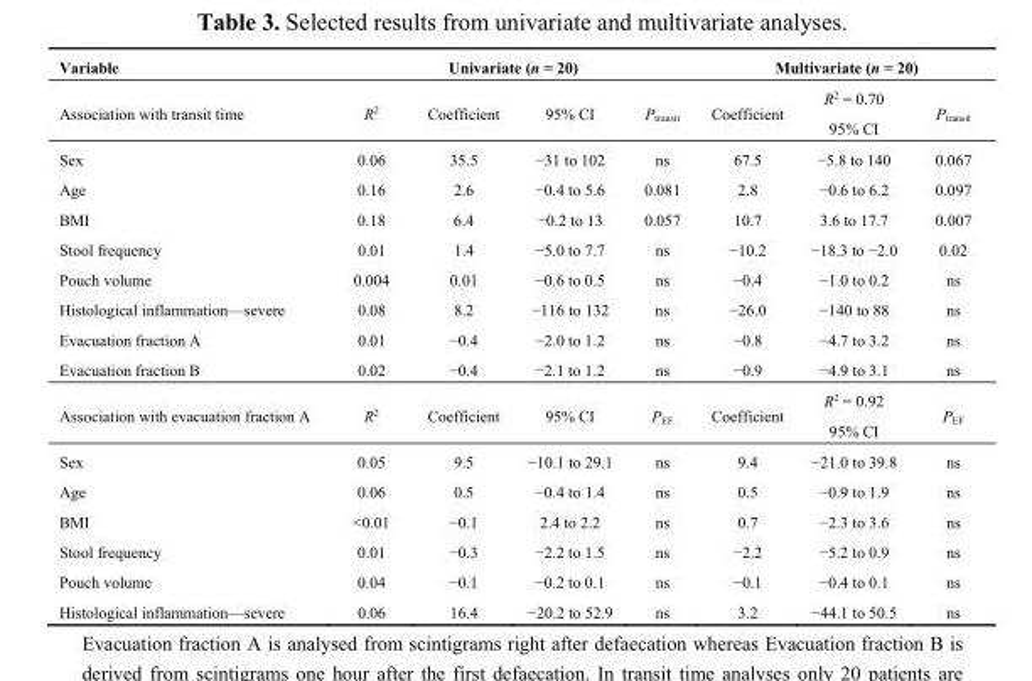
<table><thead><tr><td rowspan="2">Variable Association with transit time</td><td colspan="4">Univariate (n = 20)</td><td colspan="3">Multivariate (n = 20)</td></tr><tr><td>R<sup>2</sup></td><td>Coefficient</td><td>95% CI</td><td>P<sub>transit</sub></td><td>Coefficient</td><td>R<sup>2</sup> = 0.70 95% CI</td><td>P<sub>transit</sub></td></tr></thead><tbody><tr><td>Sex</td><td>0.06</td><td>35.5</td><td>−31 to 102</td><td>ns</td><td>67.5</td><td>−5.8 to 140</td><td>0.067</td></tr><tr><td>Age</td><td>0.16</td><td>2.6</td><td>−0.4 to 5.6</td><td>0.081</td><td>2.8</td><td>−0.6 to 6.2</td><td>0.097</td></tr><tr><td>BMI</td><td>0.18</td><td>6.4</td><td>−0.2 to 13</td><td>0.057</td><td>10.7</td><td>3.6 to 17.7</td><td>0.007</td></tr><tr><td>Stool frequency</td><td>0.01</td><td>1.4</td><td>−5.0 to 7.7</td><td>ns</td><td>−10.2</td><td>−18.3 to −2.0</td><td>0.02</td></tr><tr><td>Pouch volume</td><td>0.004</td><td>0.01</td><td>−0.6 to 0.5</td><td>ns</td><td>−0.4</td><td>−1.0 to 0.2</td><td>ns</td></tr><tr><td>Histological inflammation—severe</td><td>0.08</td><td>8.2</td><td>−116 to 132</td><td>ns</td><td>−26.0</td><td>−140 to 88</td><td>ns</td></tr><tr><td>Evacuation fraction A</td><td>0.01</td><td>−0.4</td><td>−2.0 to 1.2</td><td>ns</td><td>−0.8</td><td>−4.7 to 3.2</td><td>ns</td></tr><tr><td>Evacuation fraction B</td><td>0.02</td><td>−0.4</td><td>−2.1 to 1.2</td><td>ns</td><td>−0.9</td><td>−4.9 to 3.1</td><td>ns</td></tr><tr><td>Association with evacuation fraction A</td><td>R<sup>2</sup></td><td>Coefficient</td><td>95% CI</td><td>P<sub>EF</sub></td><td>Coefficient</td><td>R<sup>2</sup> = 0.92 95% CI</td><td>P<sub>EF</sub></td></tr><tr><td>Sex</td><td>0.05</td><td>9.5</td><td>−10.1 to 29.1</td><td>ns</td><td>9.4</td><td>−21.0 to 39.8</td><td>ns</td></tr><tr><td>Age</td><td>0.06</td><td>0.5</td><td>−0.4 to 1.4</td><td>ns</td><td>0.5</td><td>−0.9 to 1.9</td><td>ns</td></tr><tr><td>BMI</td><td>&lt;0.01</td><td>−0.1</td><td>2.4 to 2.2</td><td>ns</td><td>0.7</td><td>−2.3 to 3.6</td><td>ns</td></tr><tr><td>Stool frequency</td><td>0.01</td><td>−0.3</td><td>−2.2 to 1.5</td><td>ns</td><td>−2.2</td><td>−5.2 to 0.9</td><td>ns</td></tr><tr><td>Pouch volume</td><td>0.04</td><td>−0.1</td><td>−0.2 to 0.1</td><td>ns</td><td>−0.1</td><td>−0.4 to 0.1</td><td>ns</td></tr><tr><td>Histological inflammation—severe</td><td>0.06</td><td>16.4</td><td>−20.2 to 52.9</td><td>ns</td><td>3.2</td><td>−44.1 to 50.5</td><td>ns</td></tr></tbody></table>